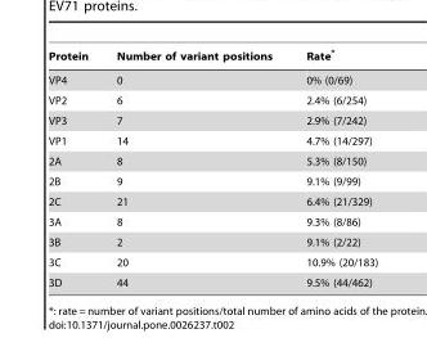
<table><thead><tr><td>Protein</td><td>Number of variant positions</td><td>Rate*</td></tr></thead><tbody><tr><td>VP4</td><td>0</td><td>0% (0/69)</td></tr><tr><td>VP2</td><td>6</td><td>2.4% (6/254)</td></tr><tr><td>VP3</td><td>7</td><td>2.9% (7/242)</td></tr><tr><td>VP1</td><td>14</td><td>4.7% (14/297)</td></tr><tr><td>2A</td><td>8</td><td>5.3% (8/150)</td></tr><tr><td>2B</td><td>9</td><td>9.1% (9/99)</td></tr><tr><td>2C</td><td>21</td><td>6.4% (21/329)</td></tr><tr><td>3A</td><td>8</td><td>9.3% (8/86)</td></tr><tr><td>3B</td><td>2</td><td>9.1% (2/22)</td></tr><tr><td>3C</td><td>20</td><td>10.9% (20/183)</td></tr><tr><td>3D</td><td>44</td><td>9.5% (44/462)</td></tr></tbody></table>